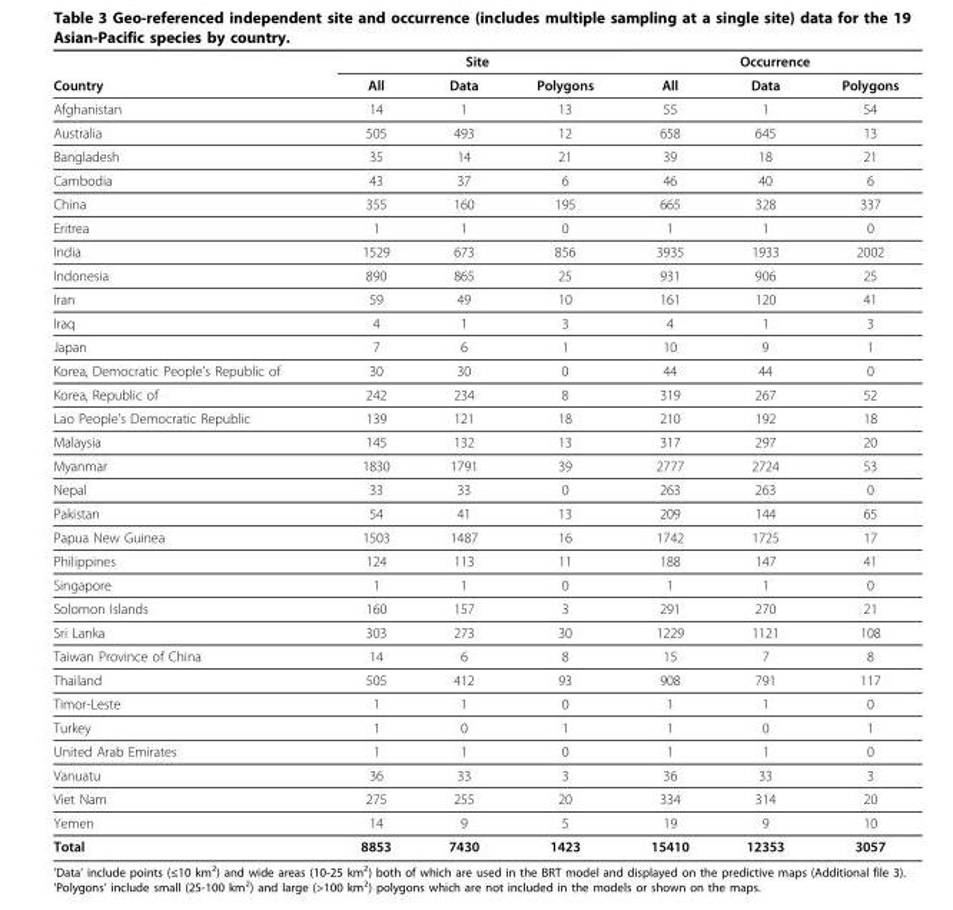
<table><thead><tr><td rowspan="2">Country</td><td colspan="3">Site</td><td colspan="3">Occurrence</td></tr><tr><td>All</td><td>Data</td><td>Polygons</td><td>All</td><td>Data</td><td>Polygons</td></tr></thead><tbody><tr><td>Afghanistan</td><td>14</td><td>1</td><td>13</td><td>55</td><td>1</td><td>54</td></tr><tr><td>Australia</td><td>505</td><td>493</td><td>12</td><td>658</td><td>645</td><td>13</td></tr><tr><td>Bangladesh</td><td>35</td><td>14</td><td>21</td><td>39</td><td>18</td><td>21</td></tr><tr><td>Cambodia</td><td>43</td><td>37</td><td>6</td><td>46</td><td>40</td><td>6</td></tr><tr><td>China</td><td>355</td><td>160</td><td>195</td><td>665</td><td>328</td><td>337</td></tr><tr><td>Eritrea</td><td>1</td><td>1</td><td>0</td><td>1</td><td>1</td><td>0</td></tr><tr><td>India</td><td>1529</td><td>673</td><td>856</td><td>3935</td><td>1933</td><td>2002</td></tr><tr><td>Indonesia</td><td>890</td><td>865</td><td>25</td><td>931</td><td>906</td><td>25</td></tr><tr><td>Iran</td><td>59</td><td>49</td><td>10</td><td>161</td><td>120</td><td>41</td></tr><tr><td>Iraq</td><td>4</td><td>1</td><td>3</td><td>4</td><td>1</td><td>3</td></tr><tr><td>Japan</td><td>7</td><td>6</td><td>1</td><td>10</td><td>9</td><td>1</td></tr><tr><td>Korea, Democratic People’s Republic of</td><td>30</td><td>30</td><td>0</td><td>44</td><td>44</td><td>0</td></tr><tr><td>Korea, Republic of</td><td>242</td><td>234</td><td>8</td><td>319</td><td>267</td><td>52</td></tr><tr><td>Lao People’s Democratic Republic</td><td>139</td><td>121</td><td>18</td><td>210</td><td>192</td><td>18</td></tr><tr><td>Malaysia</td><td>145</td><td>132</td><td>13</td><td>317</td><td>297</td><td>20</td></tr><tr><td>Myanmar</td><td>1830</td><td>1791</td><td>39</td><td>2777</td><td>2724</td><td>53</td></tr><tr><td>Nepal</td><td>33</td><td>33</td><td>0</td><td>263</td><td>263</td><td>0</td></tr><tr><td>Pakistan</td><td>54</td><td>41</td><td>13</td><td>209</td><td>144</td><td>65</td></tr><tr><td>Papua New Guinea</td><td>1503</td><td>1487</td><td>16</td><td>1742</td><td>1725</td><td>17</td></tr><tr><td>Philippines</td><td>124</td><td>113</td><td>11</td><td>188</td><td>147</td><td>41</td></tr><tr><td>Singapore</td><td>1</td><td>1</td><td>0</td><td>1</td><td>1</td><td>0</td></tr><tr><td>Solomon Islands</td><td>160</td><td>157</td><td>3</td><td>291</td><td>270</td><td>21</td></tr><tr><td>Sri Lanka</td><td>303</td><td>273</td><td>30</td><td>1229</td><td>1121</td><td>108</td></tr><tr><td>Taiwan Province of China</td><td>14</td><td>6</td><td>8</td><td>15</td><td>7</td><td>8</td></tr><tr><td>Thailand</td><td>505</td><td>412</td><td>93</td><td>908</td><td>791</td><td>117</td></tr><tr><td>Timor-Leste</td><td>1</td><td>1</td><td>0</td><td>1</td><td>1</td><td>0</td></tr><tr><td>Turkey</td><td>1</td><td>0</td><td>1</td><td>1</td><td>0</td><td>1</td></tr><tr><td>United Arab Emirates</td><td>1</td><td>1</td><td>0</td><td>1</td><td>1</td><td>0</td></tr><tr><td>Vanuatu</td><td>36</td><td>33</td><td>3</td><td>36</td><td>33</td><td>3</td></tr><tr><td>Viet Nam</td><td>275</td><td>255</td><td>20</td><td>334</td><td>314</td><td>20</td></tr><tr><td>Yemen</td><td>14</td><td>9</td><td>5</td><td>19</td><td>9</td><td>10</td></tr><tr><td>Total</td><td>8853</td><td>7430</td><td>1423</td><td>15410</td><td>12353</td><td>3057</td></tr></tbody></table>